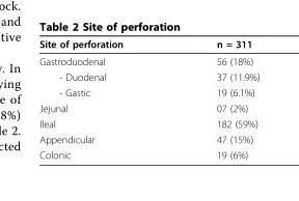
<table><thead><tr><td>Site of perforation</td><td>n = 311</td></tr></thead><tbody><tr><td>Gastroduodenal</td><td>56 (18%)</td></tr><tr><td>- Duodenal</td><td>37 (11.9%)</td></tr><tr><td>- Gastic</td><td>19 (6.1%)</td></tr><tr><td>Jejunal</td><td>07 (2%)</td></tr><tr><td>Ileal</td><td>182 (59%)</td></tr><tr><td>Appendicular</td><td>47 (15%)</td></tr><tr><td>Colonic</td><td>19 (6%)</td></tr></tbody></table>